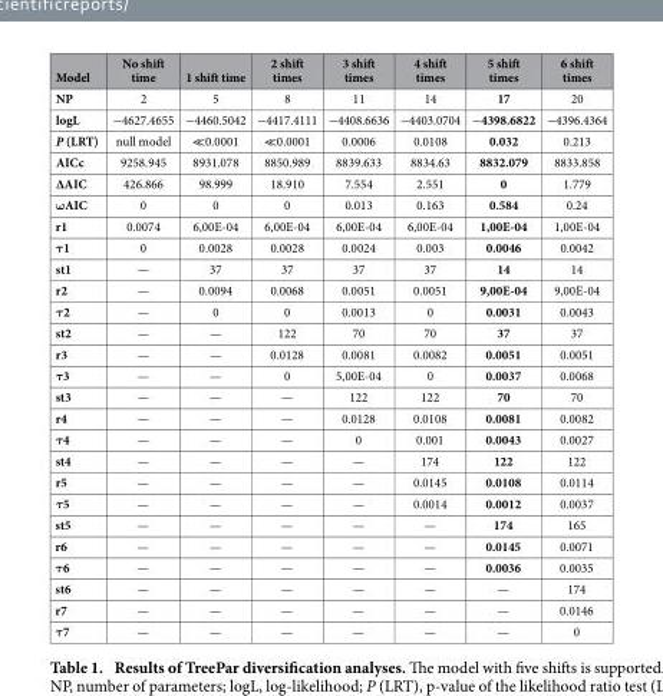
<table><thead><tr><td>Model</td><td>No shift time</td><td>1 shift time</td><td>2 shift times</td><td>3 shift times</td><td>4 shift times</td><td>5 shift times</td><td>6 shift times</td></tr></thead><tbody><tr><td>NP</td><td>2</td><td>5</td><td>8</td><td>11</td><td>14</td><td>17</td><td>20</td></tr><tr><td>logL</td><td>-4627.4655</td><td>-4460.5042</td><td>-4417.4111</td><td>-4408.6636</td><td>-4403.0704</td><td>-4398.6822</td><td>-4396.4364</td></tr><tr><td>P (LRT)</td><td>null model</td><td>≪ 0.0001</td><td>≪ 0.0001</td><td>0.0006</td><td>0.0108</td><td>0.032</td><td>0.213</td></tr><tr><td>AICc</td><td>9258.945</td><td>8931.078</td><td>8850.989</td><td>8839.633</td><td>8834.63</td><td>8832.079</td><td>8833.858</td></tr><tr><td>∆AIC</td><td>426.866</td><td>98.999</td><td>18.910</td><td>7.554</td><td>2.551</td><td>0</td><td>1.779</td></tr><tr><td>ωAIC</td><td>0</td><td>0</td><td>0</td><td>0.013</td><td>0.163</td><td>0.584</td><td>0.24</td></tr><tr><td>r1</td><td>0.0074</td><td>6,00E-04</td><td>6,00E-04</td><td>6,00E-04</td><td>6,00E-04</td><td>1,00E-04</td><td>1,00E-04</td></tr><tr><td>τ1</td><td>0</td><td>0.0028</td><td>0.0028</td><td>0.0024</td><td>0.003</td><td>0.0046</td><td>0.0042</td></tr><tr><td>st1</td><td>—</td><td>37</td><td>37</td><td>37</td><td>37</td><td>14</td><td>14</td></tr><tr><td>r2</td><td>—</td><td>0.0094</td><td>0.0068</td><td>0.0051</td><td>0.0051</td><td>9,00E-04</td><td>9,00E-04</td></tr><tr><td>τ2</td><td>—</td><td>0</td><td>0</td><td>0.0013</td><td>0</td><td>0.0031</td><td>0.0043</td></tr><tr><td>st2</td><td>—</td><td>—</td><td>122</td><td>70</td><td>70</td><td>37</td><td>37</td></tr><tr><td>r3</td><td>—</td><td>—</td><td>0.0128</td><td>0.0081</td><td>0.0082</td><td>0.0051</td><td>0.0051</td></tr><tr><td>τ3</td><td>—</td><td>—</td><td>0</td><td>5,00E-04</td><td>0</td><td>0.0037</td><td>0.0068</td></tr><tr><td>st3</td><td>—</td><td>—</td><td>—</td><td>122</td><td>122</td><td>70</td><td>70</td></tr><tr><td>r4</td><td>—</td><td>—</td><td>—</td><td>0.0128</td><td>0.0108</td><td>0.0081</td><td>0.0082</td></tr><tr><td>τ4</td><td>—</td><td>—</td><td>—</td><td>0</td><td>0.001</td><td>0.0043</td><td>0.0027</td></tr><tr><td>st4</td><td>—</td><td>—</td><td>—</td><td>—</td><td>174</td><td>122</td><td>122</td></tr><tr><td>r5</td><td>—</td><td>—</td><td>—</td><td>—</td><td>0.0145</td><td>0.0108</td><td>0.0114</td></tr><tr><td>τ5</td><td>—</td><td>—</td><td>—</td><td>—</td><td>0.0014</td><td>0.0012</td><td>0.0037</td></tr><tr><td>st5</td><td>—</td><td>—</td><td>—</td><td>—</td><td>—</td><td>174</td><td>165</td></tr><tr><td>r6</td><td>—</td><td>—</td><td>—</td><td>—</td><td>—</td><td>0.0145</td><td>0.0071</td></tr><tr><td>τ6</td><td>—</td><td>—</td><td>—</td><td>—</td><td>—</td><td>0.0036</td><td>0.0035</td></tr><tr><td>st6</td><td>—</td><td>—</td><td>—</td><td>—</td><td>—</td><td>—</td><td>174</td></tr><tr><td>r7</td><td>—</td><td>—</td><td>—</td><td>—</td><td>—</td><td>—</td><td>0.0146</td></tr><tr><td>τ7</td><td>—</td><td>—</td><td>—</td><td>—</td><td>—</td><td>—</td><td>0</td></tr></tbody></table>